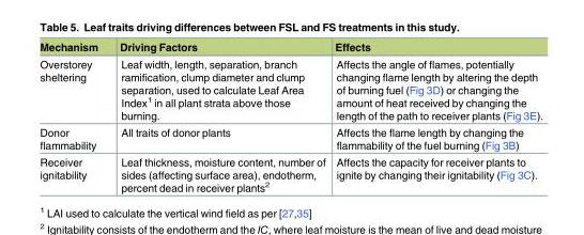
<table><thead><tr><td>Mechanism</td><td>Driving Factors</td><td>Effects</td></tr></thead><tbody><tr><td>Overstorey sheltering</td><td>Leaf width, length, separation, branch ramification, clump diameter and clump separation, used to calculate Leaf Area Index<sup>1</sup> in all plant strata above those burning.</td><td>Affects the angle of flames, potentially changing flame length by altering the depth of burning fuel (Fig 3D) or changing the amount of heat received by changing the length of the path to receiver plants (Fig 3E).</td></tr><tr><td>Donor flammability</td><td>All traits of donor plants</td><td>Affects the flame length by changing the flammability of the fuel burning (Fig 3B)</td></tr><tr><td>Receiver ignitability</td><td>Leaf thickness, moisture content, number of sides (affecting surface area), endotherm, percent dead in receiver plants<sup>2</sup></td><td>Affects the capacity for receiver plants to ignite by changing their ignitability (Fig 3C).</td></tr></tbody></table>